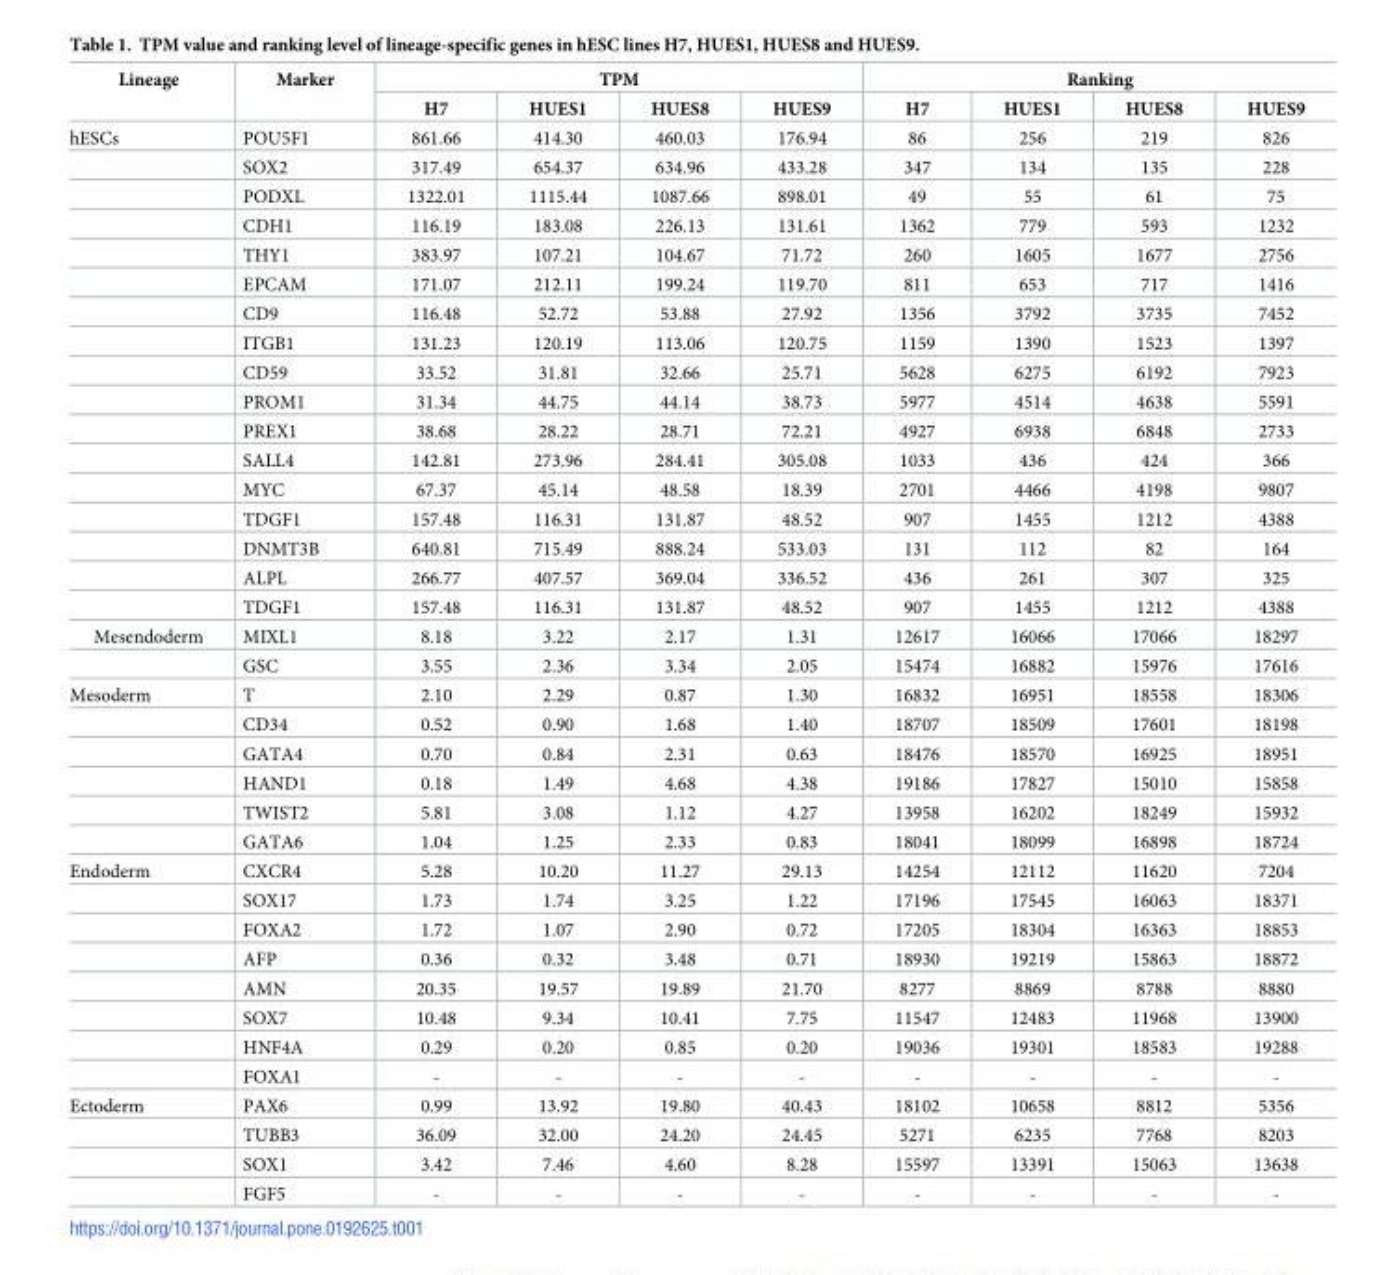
<table><thead><tr><td rowspan="2">Lineage</td><td rowspan="2">Marker</td><td colspan="4">TPM</td><td colspan="4">Ranking</td></tr><tr><td>H7</td><td>HUES1</td><td>HUES8</td><td>HUES9</td><td>H7</td><td>HUES1</td><td>HUES8</td><td>HUES9</td></tr></thead><tbody><tr><td rowspan="17">hESCs</td><td>POU5F1</td><td>861.66</td><td>414.30</td><td>460.03</td><td>176.94</td><td>86</td><td>256</td><td>219</td><td>826</td></tr><tr><td>SOX2</td><td>317.49</td><td>654.37</td><td>634.96</td><td>433.28</td><td>347</td><td>134</td><td>135</td><td>228</td></tr><tr><td>PODXL</td><td>1322.01</td><td>1115.44</td><td>1087.66</td><td>898.01</td><td>49</td><td>55</td><td>61</td><td>75</td></tr><tr><td>CDH1</td><td>116.19</td><td>183.08</td><td>226.13</td><td>131.61</td><td>1362</td><td>779</td><td>593</td><td>1232</td></tr><tr><td>THY1</td><td>383.97</td><td>107.21</td><td>104.67</td><td>71.72</td><td>260</td><td>1605</td><td>1677</td><td>2756</td></tr><tr><td>EPCAM</td><td>171.07</td><td>212.11</td><td>199.24</td><td>119.70</td><td>811</td><td>653</td><td>717</td><td>1416</td></tr><tr><td>CD9</td><td>116.48</td><td>52.72</td><td>53.88</td><td>27.92</td><td>1356</td><td>3792</td><td>3735</td><td>7452</td></tr><tr><td>ITGB1</td><td>131.23</td><td>120.19</td><td>113.06</td><td>120.75</td><td>1159</td><td>1390</td><td>1523</td><td>1397</td></tr><tr><td>CD59</td><td>33.52</td><td>31.81</td><td>32.66</td><td>25.71</td><td>5628</td><td>6275</td><td>6192</td><td>7923</td></tr><tr><td>PROM1</td><td>31.34</td><td>44.75</td><td>44.14</td><td>38.73</td><td>5977</td><td>4514</td><td>4638</td><td>5591</td></tr><tr><td>PREX1</td><td>38.68</td><td>28.22</td><td>28.71</td><td>72.21</td><td>4927</td><td>6938</td><td>6848</td><td>2733</td></tr><tr><td>SALL4</td><td>142.81</td><td>273.96</td><td>284.41</td><td>305.08</td><td>1033</td><td>436</td><td>424</td><td>366</td></tr><tr><td>MYC</td><td>67.37</td><td>45.14</td><td>48.58</td><td>18.39</td><td>2701</td><td>4466</td><td>4198</td><td>9807</td></tr><tr><td>TDGF1</td><td>157.48</td><td>116.31</td><td>131.87</td><td>48.52</td><td>907</td><td>1455</td><td>1212</td><td>4388</td></tr><tr><td>DNMT3B</td><td>640.81</td><td>715.49</td><td>888.24</td><td>533.03</td><td>131</td><td>112</td><td>82</td><td>164</td></tr><tr><td>ALPL</td><td>266.77</td><td>407.57</td><td>369.04</td><td>336.52</td><td>436</td><td>261</td><td>307</td><td>325</td></tr><tr><td>TDGF1</td><td>157.48</td><td>116.31</td><td>131.87</td><td>48.52</td><td>907</td><td>1455</td><td>1212</td><td>4388</td></tr><tr><td rowspan="2">Mesendoderm</td><td>MIXL1</td><td>8.18</td><td>3.22</td><td>2.17</td><td>1.31</td><td>12617</td><td>16066</td><td>17066</td><td>18297</td></tr><tr><td>GSC</td><td>3.55</td><td>2.36</td><td>3.34</td><td>2.05</td><td>15474</td><td>16882</td><td>15976</td><td>17616</td></tr><tr><td rowspan="6">Mesoderm</td><td>T</td><td>2.10</td><td>2.29</td><td>0.87</td><td>1.30</td><td>16832</td><td>16951</td><td>18558</td><td>18306</td></tr><tr><td>CD34</td><td>0.52</td><td>0.90</td><td>1.68</td><td>1.40</td><td>18707</td><td>18509</td><td>17601</td><td>18198</td></tr><tr><td>GATA4</td><td>0.70</td><td>0.84</td><td>2.31</td><td>0.63</td><td>18476</td><td>18570</td><td>16925</td><td>18951</td></tr><tr><td>HAND1</td><td>0.18</td><td>1.49</td><td>4.68</td><td>4.38</td><td>19186</td><td>17827</td><td>15010</td><td>15858</td></tr><tr><td>TWIST2</td><td>5.81</td><td>3.08</td><td>1.12</td><td>4.27</td><td>13958</td><td>16202</td><td>18249</td><td>15932</td></tr><tr><td>GATA6</td><td>1.04</td><td>1.25</td><td>2.33</td><td>0.83</td><td>18041</td><td>18099</td><td>16898</td><td>18724</td></tr><tr><td rowspan="8">Endoderm</td><td>CXCR4</td><td>5.28</td><td>10.20</td><td>11.27</td><td>29.13</td><td>14254</td><td>12112</td><td>11620</td><td>7204</td></tr><tr><td>SOX17</td><td>1.73</td><td>1.74</td><td>3.25</td><td>1.22</td><td>17196</td><td>17545</td><td>16063</td><td>18371</td></tr><tr><td>FOXA2</td><td>1.72</td><td>1.07</td><td>2.90</td><td>0.72</td><td>17205</td><td>18304</td><td>16363</td><td>18853</td></tr><tr><td>AFP</td><td>0.36</td><td>0.32</td><td>3.48</td><td>0.71</td><td>18930</td><td>19219</td><td>15863</td><td>18872</td></tr><tr><td>AMN</td><td>20.35</td><td>19.57</td><td>19.89</td><td>21.70</td><td>8277</td><td>8869</td><td>8788</td><td>8880</td></tr><tr><td>SOX7</td><td>10.48</td><td>9.34</td><td>10.41</td><td>7.75</td><td>11547</td><td>12483</td><td>11968</td><td>13900</td></tr><tr><td>HNF4A</td><td>0.29</td><td>0.20</td><td>0.85</td><td>0.20</td><td>19036</td><td>19301</td><td>18583</td><td>19288</td></tr><tr><td>FOXA1</td><td>-</td><td>-</td><td>-</td><td>-</td><td>-</td><td>-</td><td>-</td><td>-</td></tr><tr><td rowspan="4">Ectoderm</td><td>PAX6</td><td>0.99</td><td>13.92</td><td>19.80</td><td>40.43</td><td>18102</td><td>10658</td><td>8812</td><td>5356</td></tr><tr><td>TUBB3</td><td>36.09</td><td>32.00</td><td>24.20</td><td>24.45</td><td>5271</td><td>6235</td><td>7768</td><td>8203</td></tr><tr><td>SOX1</td><td>3.42</td><td>7.46</td><td>4.60</td><td>8.28</td><td>15597</td><td>13391</td><td>15063</td><td>13638</td></tr><tr><td>FGF5</td><td>-</td><td>-</td><td>-</td><td>-</td><td>-</td><td>-</td><td>-</td><td>-</td></tr></tbody></table>